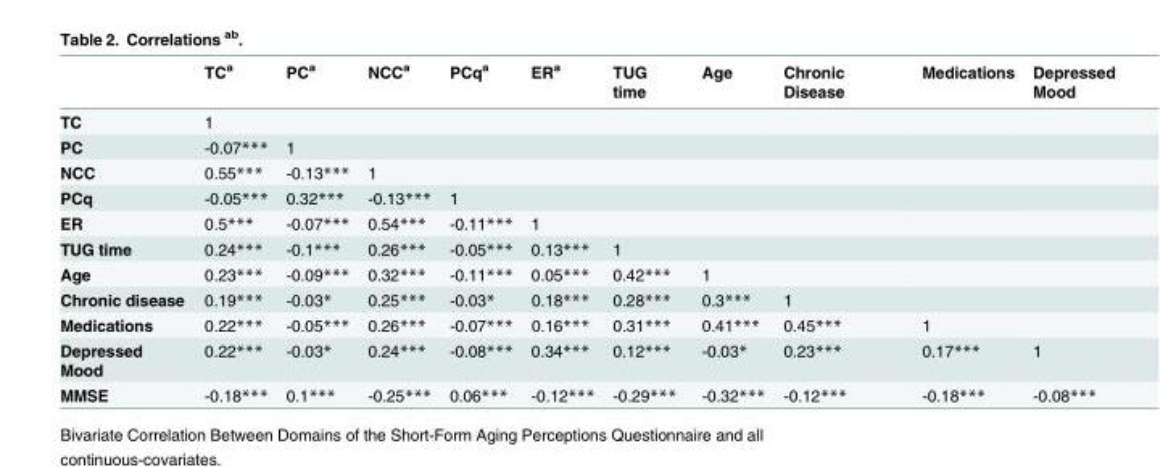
<table><thead><tr><td></td><td>TC<sup>a</sup></td><td>PC<sup>a</sup></td><td>NCC<sup>a</sup></td><td>PCq<sup>a</sup></td><td>ER<sup>a</sup></td><td>TUG time</td><td>Age</td><td>Chronic Disease</td><td>Medications</td><td>Depressed Mood</td></tr></thead><tbody><tr><td>TC</td><td>1</td><td></td><td></td><td></td><td></td><td></td><td></td><td></td><td></td><td></td></tr><tr><td>PC</td><td>-0.07***</td><td>1</td><td></td><td></td><td></td><td></td><td></td><td></td><td></td><td></td></tr><tr><td>NCC</td><td>0.55***</td><td>-0.13***</td><td>1</td><td></td><td></td><td></td><td></td><td></td><td></td><td></td></tr><tr><td>PCq</td><td>-0.05***</td><td>0.32***</td><td>-0.13***</td><td>1</td><td></td><td></td><td></td><td></td><td></td><td></td></tr><tr><td>ER</td><td>0.5***</td><td>-0.07***</td><td>0.54***</td><td>-0.11***</td><td>1</td><td></td><td></td><td></td><td></td><td></td></tr><tr><td>TUG time</td><td>0.24***</td><td>-0.1***</td><td>0.26***</td><td>-0.05***</td><td>0.13***</td><td>1</td><td></td><td></td><td></td><td></td></tr><tr><td>Age</td><td>0.23***</td><td>-0.09***</td><td>0.32***</td><td>-0.11***</td><td>0.05***</td><td>0.42***</td><td>1</td><td></td><td></td><td></td></tr><tr><td>Chronic disease</td><td>0.19***</td><td>-0.03*</td><td>0.25***</td><td>-0.03*</td><td>0.18***</td><td>0.28***</td><td>0.3***</td><td>1</td><td></td><td></td></tr><tr><td>Medications</td><td>0.22***</td><td>-0.05***</td><td>0.26***</td><td>-0.07***</td><td>0.16***</td><td>0.31***</td><td>0.41***</td><td>0.45***</td><td>1</td><td></td></tr><tr><td>Depressed Mood</td><td>0.22***</td><td>-0.03*</td><td>0.24***</td><td>-0.08***</td><td>0.34***</td><td>0.12***</td><td>-0.03*</td><td>0.23***</td><td>0.17***</td><td>1</td></tr><tr><td>MMSE</td><td>-0.18***</td><td>0.1***</td><td>-0.25***</td><td>0.06***</td><td>-0.12***</td><td>-0.29***</td><td>-0.32***</td><td>-0.12***</td><td>-0.18***</td><td>-0.08***</td></tr></tbody></table>